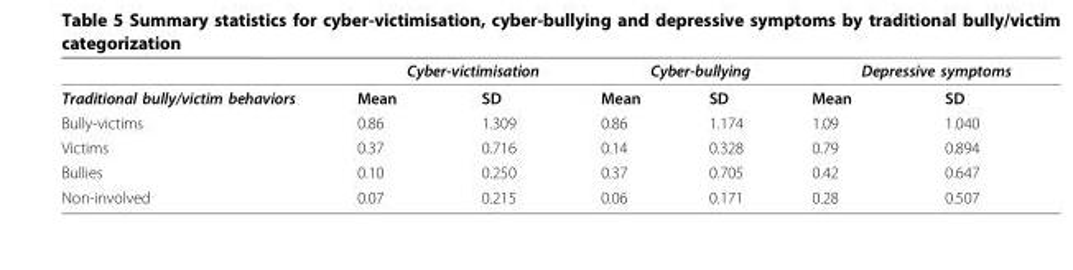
<table><thead><tr><td rowspan="2">Traditional bully/victim behaviors</td><td colspan="2">Cyber-victimisation</td><td colspan="2">Cyber-bullying</td><td colspan="2">Depressive symptoms</td></tr><tr><td>Mean</td><td>SD</td><td>Mean</td><td>SD</td><td>Mean</td><td>SD</td></tr></thead><tbody><tr><td>Bully-victims</td><td>0.86</td><td>1.309</td><td>0.86</td><td>1.174</td><td>1.09</td><td>1.040</td></tr><tr><td>Victims</td><td>0.37</td><td>0.716</td><td>0.14</td><td>0.328</td><td>0.79</td><td>0.894</td></tr><tr><td>Bullies</td><td>0.10</td><td>0.250</td><td>0.37</td><td>0.705</td><td>0.42</td><td>0.647</td></tr><tr><td>Non-involved</td><td>0.07</td><td>0.215</td><td>0.06</td><td>0.171</td><td>0.28</td><td>0.507</td></tr></tbody></table>